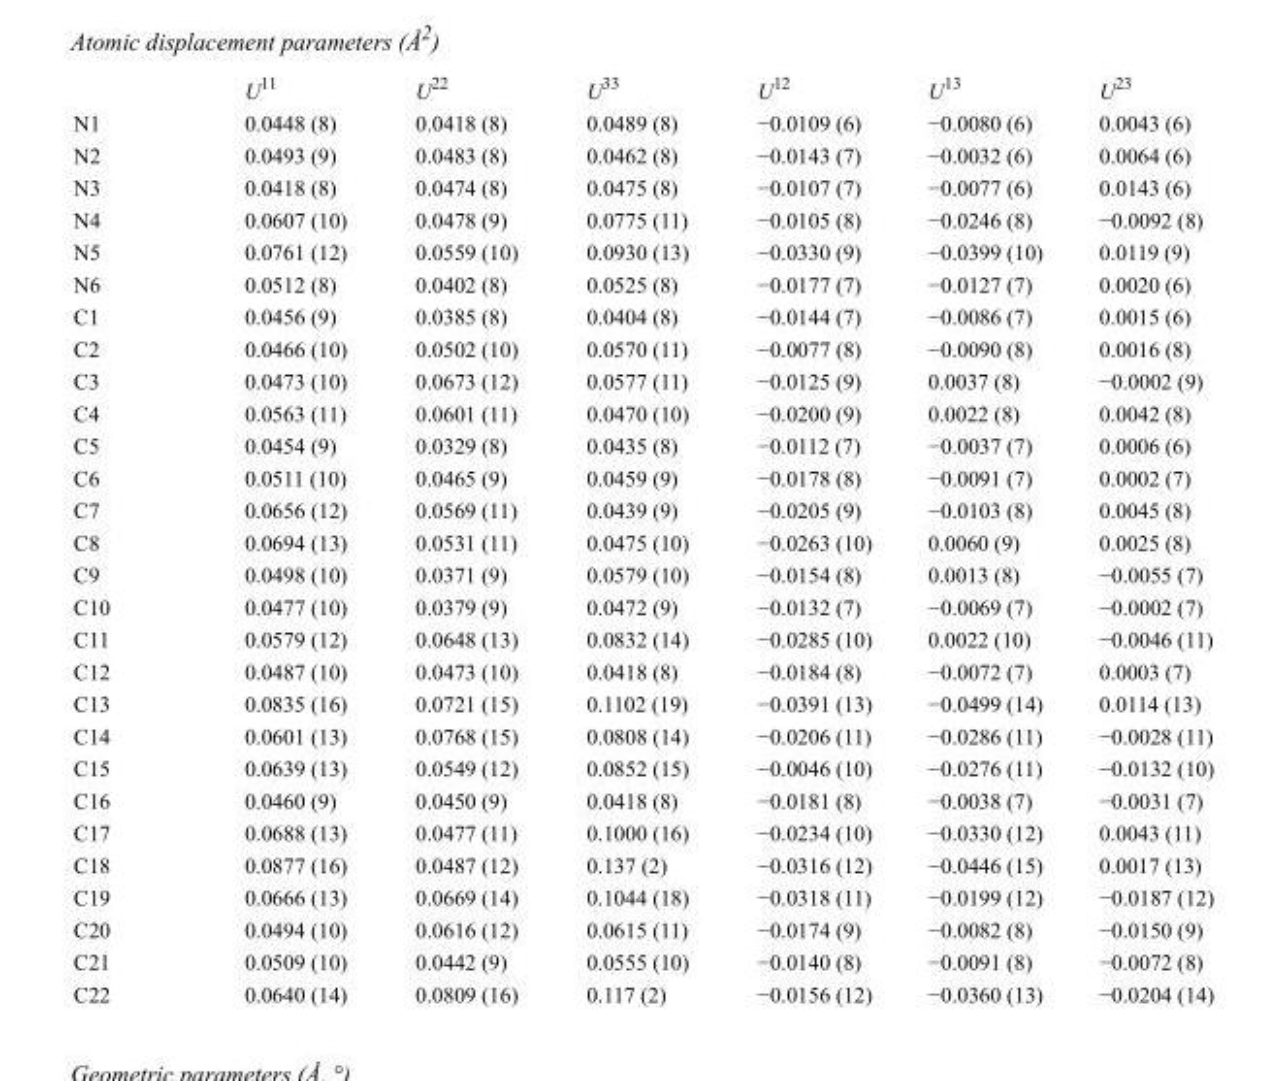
<table><thead><tr><td></td><td>U<sup>11</sup></td><td>U<sup>22</sup></td><td>U<sup>33</sup></td><td>U<sup>12</sup></td><td>U<sup>13</sup></td><td>U<sup>23</sup></td></tr></thead><tbody><tr><td>N1</td><td>0.0448 (8)</td><td>0.0418 (8)</td><td>0.0489 (8)</td><td>−0.0109 (6)</td><td>−0.0080 (6)</td><td>0.0043 (6)</td></tr><tr><td>N2</td><td>0.0493 (9)</td><td>0.0483 (8)</td><td>0.0462 (8)</td><td>−0.0143 (7)</td><td>−0.0032 (6)</td><td>0.0064 (6)</td></tr><tr><td>N3</td><td>0.0418 (8)</td><td>0.0474 (8)</td><td>0.0475 (8)</td><td>−0.0107 (7)</td><td>−0.0077 (6)</td><td>0.0143 (6)</td></tr><tr><td>N4</td><td>0.0607 (10)</td><td>0.0478 (9)</td><td>0.0775 (11)</td><td>−0.0105 (8)</td><td>−0.0246 (8)</td><td>−0.0092 (8)</td></tr><tr><td>N5</td><td>0.0761 (12)</td><td>0.0559 (10)</td><td>0.0930 (13)</td><td>−0.0330 (9)</td><td>−0.0399 (10)</td><td>0.0119 (9)</td></tr><tr><td>N6</td><td>0.0512 (8)</td><td>0.0402 (8)</td><td>0.0525 (8)</td><td>−0.0177 (7)</td><td>−0.0127 (7)</td><td>0.0020 (6)</td></tr><tr><td>C1</td><td>0.0456 (9)</td><td>0.0385 (8)</td><td>0.0404 (8)</td><td>−0.0144 (7)</td><td>−0.0086 (7)</td><td>0.0015 (6)</td></tr><tr><td>C2</td><td>0.0466 (10)</td><td>0.0502 (10)</td><td>0.0570 (11)</td><td>−0.0077 (8)</td><td>−0.0090 (8)</td><td>0.0016 (8)</td></tr><tr><td>C3</td><td>0.0473 (10)</td><td>0.0673 (12)</td><td>0.0577 (11)</td><td>−0.0125 (9)</td><td>0.0037 (8)</td><td>−0.0002 (9)</td></tr><tr><td>C4</td><td>0.0563 (11)</td><td>0.0601 (11)</td><td>0.0470 (10)</td><td>−0.0200 (9)</td><td>0.0022 (8)</td><td>0.0042 (8)</td></tr><tr><td>C5</td><td>0.0454 (9)</td><td>0.0329 (8)</td><td>0.0435 (8)</td><td>−0.0112 (7)</td><td>−0.0037 (7)</td><td>0.0006 (6)</td></tr><tr><td>C6</td><td>0.0511 (10)</td><td>0.0465 (9)</td><td>0.0459 (9)</td><td>−0.0178 (8)</td><td>−0.0091 (7)</td><td>0.0002 (7)</td></tr><tr><td>C7</td><td>0.0656 (12)</td><td>0.0569 (11)</td><td>0.0439 (9)</td><td>−0.0205 (9)</td><td>−0.0103 (8)</td><td>0.0045 (8)</td></tr><tr><td>C8</td><td>0.0694 (13)</td><td>0.0531 (11)</td><td>0.0475 (10)</td><td>−0.0263 (10)</td><td>0.0060 (9)</td><td>0.0025 (8)</td></tr><tr><td>C9</td><td>0.0498 (10)</td><td>0.0371 (9)</td><td>0.0579 (10)</td><td>−0.0154 (8)</td><td>0.0013 (8)</td><td>−0.0055 (7)</td></tr><tr><td>C10</td><td>0.0477 (10)</td><td>0.0379 (9)</td><td>0.0472 (9)</td><td>−0.0132 (7)</td><td>−0.0069 (7)</td><td>−0.0002 (7)</td></tr><tr><td>C11</td><td>0.0579 (12)</td><td>0.0648 (13)</td><td>0.0832 (14)</td><td>−0.0285 (10)</td><td>0.0022 (10)</td><td>−0.0046 (11)</td></tr><tr><td>C12</td><td>0.0487 (10)</td><td>0.0473 (10)</td><td>0.0418 (8)</td><td>−0.0184 (8)</td><td>−0.0072 (7)</td><td>0.0003 (7)</td></tr><tr><td>C13</td><td>0.0835 (16)</td><td>0.0721 (15)</td><td>0.1102 (19)</td><td>−0.0391 (13)</td><td>−0.0499 (14)</td><td>0.0114 (13)</td></tr><tr><td>C14</td><td>0.0601 (13)</td><td>0.0768 (15)</td><td>0.0808 (14)</td><td>−0.0206 (11)</td><td>−0.0286 (11)</td><td>−0.0028 (11)</td></tr><tr><td>C15</td><td>0.0639 (13)</td><td>0.0549 (12)</td><td>0.0852 (15)</td><td>−0.0046 (10)</td><td>−0.0276 (11)</td><td>−0.0132 (10)</td></tr><tr><td>C16</td><td>0.0460 (9)</td><td>0.0450 (9)</td><td>0.0418 (8)</td><td>−0.0181 (8)</td><td>−0.0038 (7)</td><td>−0.0031 (7)</td></tr><tr><td>C17</td><td>0.0688 (13)</td><td>0.0477 (11)</td><td>0.1000 (16)</td><td>−0.0234 (10)</td><td>−0.0330 (12)</td><td>0.0043 (11)</td></tr><tr><td>C18</td><td>0.0877 (16)</td><td>0.0487 (12)</td><td>0.137 (2)</td><td>−0.0316 (12)</td><td>−0.0446 (15)</td><td>0.0017 (13)</td></tr><tr><td>C19</td><td>0.0666 (13)</td><td>0.0669 (14)</td><td>0.1044 (18)</td><td>−0.0318 (11)</td><td>−0.0199 (12)</td><td>−0.0187 (12)</td></tr><tr><td>C20</td><td>0.0494 (10)</td><td>0.0616 (12)</td><td>0.0615 (11)</td><td>−0.0174 (9)</td><td>−0.0082 (8)</td><td>−0.0150 (9)</td></tr><tr><td>C21</td><td>0.0509 (10)</td><td>0.0442 (9)</td><td>0.0555 (10)</td><td>−0.0140 (8)</td><td>−0.0091 (8)</td><td>−0.0072 (8)</td></tr><tr><td>C22</td><td>0.0640 (14)</td><td>0.0809 (16)</td><td>0.117 (2)</td><td>−0.0156 (12)</td><td>−0.0360 (13)</td><td>−0.0204 (14)</td></tr></tbody></table>